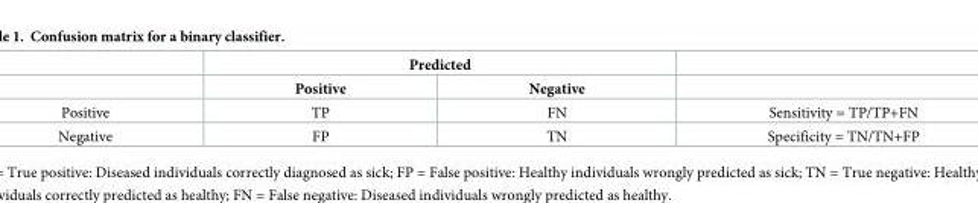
<table><thead><tr><td rowspan="2"></td><td colspan="2">Predicted</td><td rowspan="2"></td></tr><tr><td>Positive</td><td>Negative</td></tr></thead><tbody><tr><td>Positive</td><td>TP</td><td>FN</td><td>Sensitivity = TP/TP+FN</td></tr><tr><td>Negative</td><td>FP</td><td>TN</td><td>Specificity = TN/TN+FP</td></tr></tbody></table>